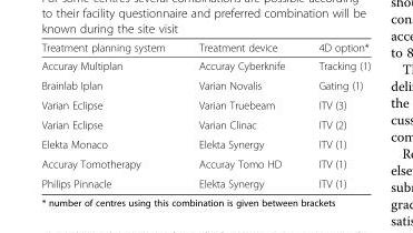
<table><thead><tr><td>Treatment planning system</td><td>Treatment device</td><td>4D option*</td></tr></thead><tbody><tr><td>Accuray Multiplan</td><td>Accuray Cyberknife</td><td>Tracking (1)</td></tr><tr><td>Brainlab Iplan</td><td>Varian Novalis</td><td>Gating (1)</td></tr><tr><td>Varian Eclipse</td><td>Varian Truebeam</td><td>ITV (3)</td></tr><tr><td>Varian Eclipse</td><td>Varian Clinac</td><td>ITV (2)</td></tr><tr><td>Elekta Monaco</td><td>Elekta Synergy</td><td>ITV (1)</td></tr><tr><td>Accuray Tomotherapy</td><td>Accuray Tomo HD</td><td>ITV (1)</td></tr><tr><td>Philips Pinnacle</td><td>Elekta Synergy</td><td>ITV (1)</td></tr></tbody></table>